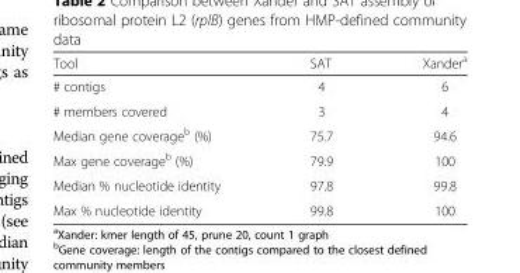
<table><thead><tr><td>Tool</td><td>SAT</td><td>Xander<sup>a</sup></td></tr></thead><tbody><tr><td># contigs</td><td>4</td><td>6</td></tr><tr><td># members covered</td><td>3</td><td>4</td></tr><tr><td>Median gene coverage<sup>b</sup> (%)</td><td>75.7</td><td>94.6</td></tr><tr><td>Max gene coverage<sup>b</sup> (%)</td><td>79.9</td><td>100</td></tr><tr><td>Median % nucleotide identity</td><td>97.8</td><td>99.8</td></tr><tr><td>Max % nucleotide identity</td><td>99.8</td><td>100</td></tr></tbody></table>